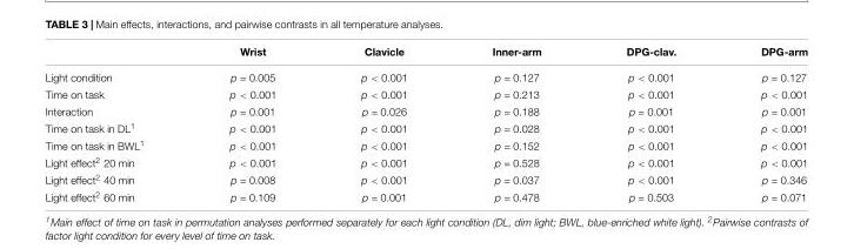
<table><thead><tr><td></td><td>Wrist</td><td>Clavicle</td><td>Inner-arm</td><td>DPG-clav.</td><td>DPG-arm</td></tr></thead><tbody><tr><td>Light condition</td><td>p = 0.005</td><td>p &lt; 0.001</td><td>p = 0.127</td><td>p &lt; 0.001</td><td>p = 0.127</td></tr><tr><td>Time on task</td><td>p &lt; 0.001</td><td>p &lt; 0.001</td><td>p = 0.213</td><td>p &lt; 0.001</td><td>p &lt; 0.001</td></tr><tr><td>Interaction</td><td>p = 0.001</td><td>p = 0.026</td><td>p = 0.188</td><td>p = 0.001</td><td>p = 0.001</td></tr><tr><td>Time on task in DL<sup>1</sup></td><td>p &lt; 0.001</td><td>p &lt; 0.001</td><td>p = 0.028</td><td>p &lt; 0.001</td><td>p &lt; 0.001</td></tr><tr><td>Time on task in BWL<sup>1</sup></td><td>p &lt; 0.001</td><td>p &lt; 0.001</td><td>p = 0.152</td><td>p &lt; 0.001</td><td>p &lt; 0.001</td></tr><tr><td>Light effect<sup>2</sup> 20 min</td><td>p &lt; 0.001</td><td>p &lt; 0.001</td><td>p = 0.528</td><td>p &lt; 0.001</td><td>p &lt; 0.001</td></tr><tr><td>Light effect<sup>2</sup> 40 min</td><td>p = 0.008</td><td>p &lt; 0.001</td><td>p = 0.037</td><td>p &lt; 0.001</td><td>p = 0.346</td></tr><tr><td>Light effect<sup>2</sup> 60 min</td><td>p = 0.109</td><td>p = 0.001</td><td>p = 0.478</td><td>p = 0.503</td><td>p = 0.071</td></tr></tbody></table>